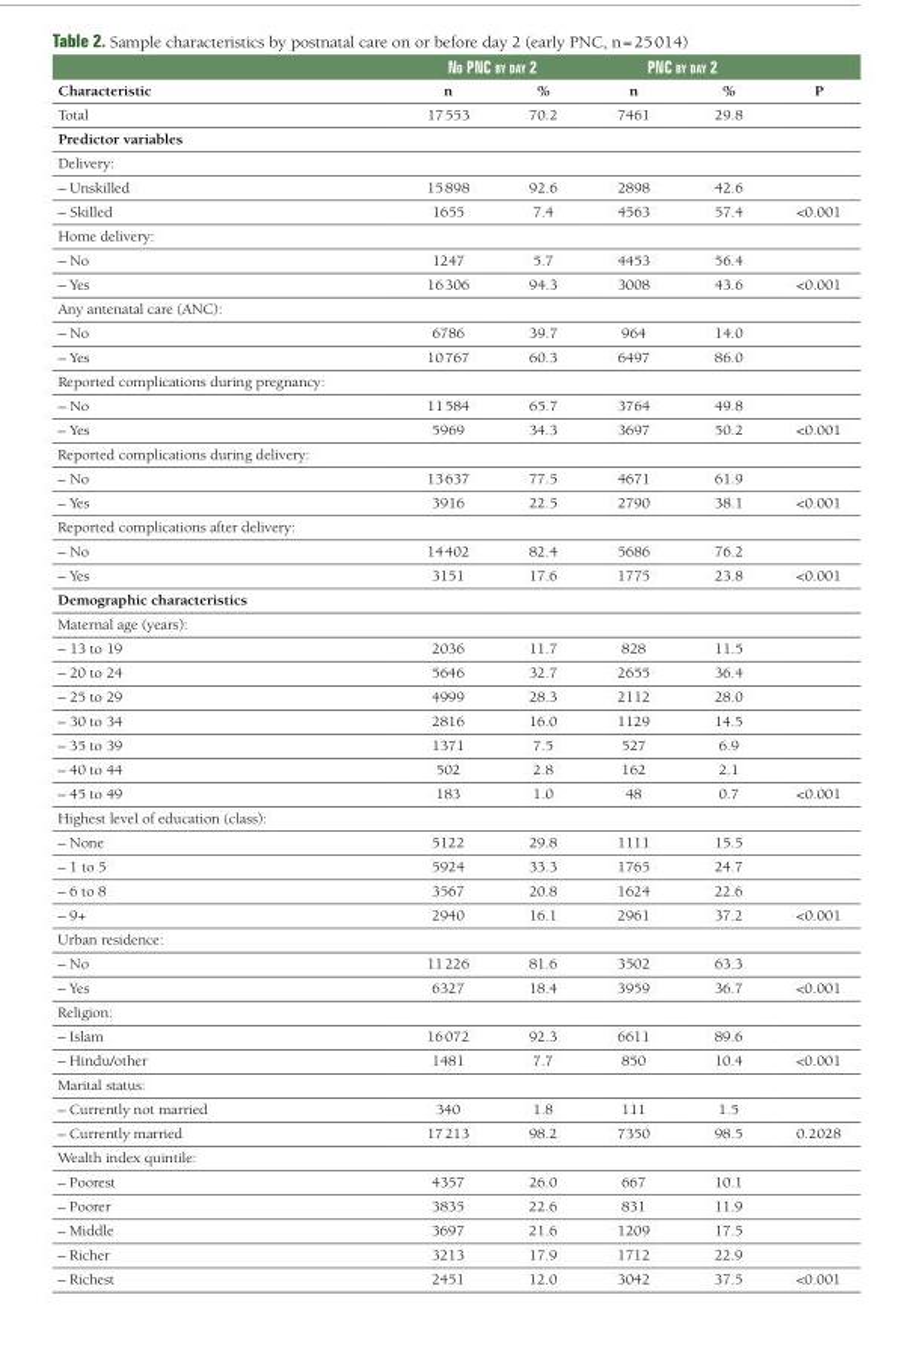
<table><thead><tr><td rowspan="2">Characteristic</td><td colspan="2">No PNC by day 2</td><td colspan="2">PNC by day 2</td><td rowspan="2">P</td></tr><tr><td>n</td><td>%</td><td>n</td><td>%</td></tr></thead><tbody><tr><td>Total</td><td>17 553</td><td>70.2</td><td>7461</td><td>29.8</td><td></td></tr><tr><td colspan="6">Predictor variables</td></tr><tr><td colspan="6">Delivery:</td></tr><tr><td>– Unskilled</td><td>15 898</td><td>92.6</td><td>2898</td><td>42.6</td><td></td></tr><tr><td>– Skilled</td><td>1655</td><td>7.4</td><td>4563</td><td>57.4</td><td>&lt;0.001</td></tr><tr><td colspan="6">Home delivery:</td></tr><tr><td>– No</td><td>1247</td><td>5.7</td><td>4453</td><td>56.4</td><td></td></tr><tr><td>– Yes</td><td>16 306</td><td>94.3</td><td>3008</td><td>43.6</td><td>&lt;0.001</td></tr><tr><td colspan="6">Any antenatal care (ANC):</td></tr><tr><td>– No</td><td>6786</td><td>39.7</td><td>964</td><td>14.0</td><td></td></tr><tr><td>– Yes</td><td>10 767</td><td>60.3</td><td>6497</td><td>86.0</td><td></td></tr><tr><td colspan="6">Reported complications during pregnancy:</td></tr><tr><td>– No</td><td>11 584</td><td>65.7</td><td>3764</td><td>49.8</td><td></td></tr><tr><td>– Yes</td><td>5969</td><td>34.3</td><td>3697</td><td>50.2</td><td>&lt;0.001</td></tr><tr><td colspan="6">Reported complications during delivery:</td></tr><tr><td>– No</td><td>13 637</td><td>77.5</td><td>4671</td><td>61.9</td><td></td></tr><tr><td>– Yes</td><td>3916</td><td>22.5</td><td>2790</td><td>38.1</td><td>&lt;0.001</td></tr><tr><td colspan="6">Reported complications after delivery:</td></tr><tr><td>– No</td><td>14 402</td><td>82.4</td><td>5686</td><td>76.2</td><td></td></tr><tr><td>– Yes</td><td>3151</td><td>17.6</td><td>1775</td><td>23.8</td><td>&lt;0.001</td></tr><tr><td colspan="6">Demographic characteristics</td></tr><tr><td colspan="6">Maternal age (years):</td></tr><tr><td>– 13 to 19</td><td>2036</td><td>11.7</td><td>828</td><td>11.5</td><td></td></tr><tr><td>– 20 to 24</td><td>5646</td><td>32.7</td><td>2655</td><td>36.4</td><td></td></tr><tr><td>– 25 to 29</td><td>4999</td><td>28.3</td><td>2112</td><td>28.0</td><td></td></tr><tr><td>– 30 to 34</td><td>2816</td><td>16.0</td><td>1129</td><td>14.5</td><td></td></tr><tr><td>– 35 to 39</td><td>1371</td><td>7.5</td><td>527</td><td>6.9</td><td></td></tr><tr><td>– 40 to 44</td><td>502</td><td>2.8</td><td>162</td><td>2.1</td><td></td></tr><tr><td>– 45 to 49</td><td>183</td><td>1.0</td><td>48</td><td>0.7</td><td>&lt;0.001</td></tr><tr><td colspan="6">Highest level of education (class):</td></tr><tr><td>– None</td><td>5122</td><td>29.8</td><td>1111</td><td>15.5</td><td></td></tr><tr><td>– 1 to 5</td><td>5924</td><td>33.3</td><td>1765</td><td>24.7</td><td></td></tr><tr><td>– 6 to 8</td><td>3567</td><td>20.8</td><td>1624</td><td>22.6</td><td></td></tr><tr><td>– 9+</td><td>2940</td><td>16.1</td><td>2961</td><td>37.2</td><td>&lt;0.001</td></tr><tr><td colspan="6">Urban residence:</td></tr><tr><td>– No</td><td>11 226</td><td>81.6</td><td>3502</td><td>63.3</td><td></td></tr><tr><td>– Yes</td><td>6327</td><td>18.4</td><td>3959</td><td>36.7</td><td>&lt;0.001</td></tr><tr><td colspan="6">Religion:</td></tr><tr><td>– Islam</td><td>16 072</td><td>92.3</td><td>6611</td><td>89.6</td><td></td></tr><tr><td>– Hindu/other</td><td>1481</td><td>7.7</td><td>850</td><td>10.4</td><td>&lt;0.001</td></tr><tr><td colspan="6">Marital status:</td></tr><tr><td>– Currently not married</td><td>340</td><td>1.8</td><td>111</td><td>1.5</td><td></td></tr><tr><td>– Currently married</td><td>17 213</td><td>98.2</td><td>7350</td><td>98.5</td><td>0.2028</td></tr><tr><td colspan="6">Wealth index quintile:</td></tr><tr><td>– Poorest</td><td>4357</td><td>26.0</td><td>667</td><td>10.1</td><td></td></tr><tr><td>– Poorer</td><td>3835</td><td>22.6</td><td>831</td><td>11.9</td><td></td></tr><tr><td>– Middle</td><td>3697</td><td>21.6</td><td>1209</td><td>17.5</td><td></td></tr><tr><td>– Richer</td><td>3213</td><td>17.9</td><td>1712</td><td>22.9</td><td></td></tr><tr><td>– Richest</td><td>2451</td><td>12.0</td><td>3042</td><td>37.5</td><td>&lt;0.001</td></tr></tbody></table>